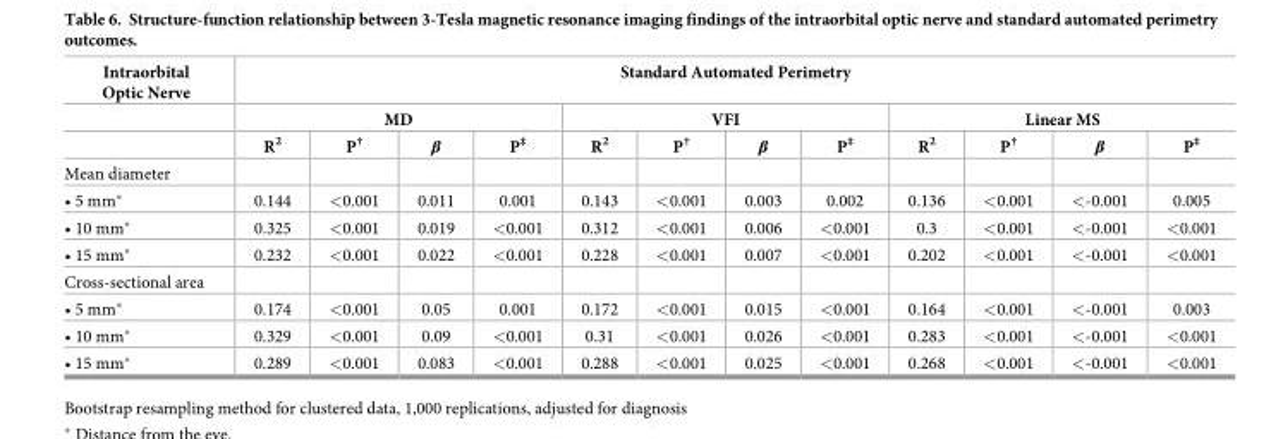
<table><thead><tr><td rowspan="3">Intraorbital Optic Nerve</td><td colspan="12">Standard Automated Perimetry</td></tr><tr><td colspan="4">MD</td><td colspan="4">VFI</td><td colspan="4">Linear MS</td></tr><tr><td>R<sup>2</sup></td><td>P<sup>†</sup></td><td>β</td><td>P<sup>‡</sup></td><td>R<sup>2</sup></td><td>P<sup>†</sup></td><td>β</td><td>P<sup>‡</sup></td><td>R<sup>2</sup></td><td>P<sup>†</sup></td><td>β</td><td>P<sup>‡</sup></td></tr></thead><tbody><tr><td colspan="13">Mean diameter</td></tr><tr><td>• 5 mm*</td><td>0.144</td><td>&lt;0.001</td><td>0.011</td><td>0.001</td><td>0.143</td><td>&lt;0.001</td><td>0.003</td><td>0.002</td><td>0.136</td><td>&lt;0.001</td><td>&lt;-0.001</td><td>0.005</td></tr><tr><td>• 10 mm*</td><td>0.325</td><td>&lt;0.001</td><td>0.019</td><td>&lt;0.001</td><td>0.312</td><td>&lt;0.001</td><td>0.006</td><td>&lt;0.001</td><td>0.3</td><td>&lt;0.001</td><td>&lt;-0.001</td><td>&lt;0.001</td></tr><tr><td>• 15 mm*</td><td>0.232</td><td>&lt;0.001</td><td>0.022</td><td>&lt;0.001</td><td>0.228</td><td>&lt;0.001</td><td>0.007</td><td>&lt;0.001</td><td>0.202</td><td>&lt;0.001</td><td>&lt;-0.001</td><td>&lt;0.001</td></tr><tr><td colspan="13">Cross-sectional area</td></tr><tr><td>• 5 mm*</td><td>0.174</td><td>&lt;0.001</td><td>0.05</td><td>0.001</td><td>0.172</td><td>&lt;0.001</td><td>0.015</td><td>&lt;0.001</td><td>0.164</td><td>&lt;0.001</td><td>&lt;-0.001</td><td>0.003</td></tr><tr><td>• 10 mm*</td><td>0.329</td><td>&lt;0.001</td><td>0.09</td><td>&lt;0.001</td><td>0.31</td><td>&lt;0.001</td><td>0.026</td><td>&lt;0.001</td><td>0.283</td><td>&lt;0.001</td><td>&lt;-0.001</td><td>&lt;0.001</td></tr><tr><td>• 15 mm*</td><td>0.289</td><td>&lt;0.001</td><td>0.083</td><td>&lt;0.001</td><td>0.288</td><td>&lt;0.001</td><td>0.025</td><td>&lt;0.001</td><td>0.268</td><td>&lt;0.001</td><td>&lt;-0.001</td><td>&lt;0.001</td></tr></tbody></table>